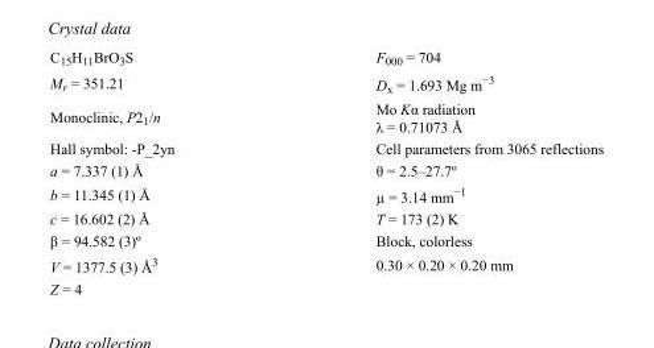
<table><tbody><tr><td>C<sub>15</sub>H<sub>11</sub>BrO<sub>3</sub>S</td><td>F<sub>000</sub> = 704</td></tr><tr><td>M<sub>r</sub> = 351.21</td><td>D<sub>x</sub> = 1.693 Mg m<sup>−3</sup></td></tr><tr><td>Monoclinic, P2<sub>1</sub>/n</td><td>Mo Kα radiation λ = 0.71073 Å</td></tr><tr><td>Hall symbol: -P_2yn</td><td>Cell parameters from 3065 reflections</td></tr><tr><td>a = 7.337 (1) Å</td><td>θ = 2.5–27.7º</td></tr><tr><td>b = 11.345 (1) Å</td><td>µ = 3.14 mm<sup>−1</sup></td></tr><tr><td>c = 16.602 (2) Å</td><td>T = 173 (2) K</td></tr><tr><td>β = 94.582 (3)º</td><td>Block, colorless</td></tr><tr><td>V = 1377.5 (3) Å<sup>3</sup></td><td>0.30 × 0.20 × 0.20 mm</td></tr><tr><td>Z = 4</td><td></td></tr></tbody></table>